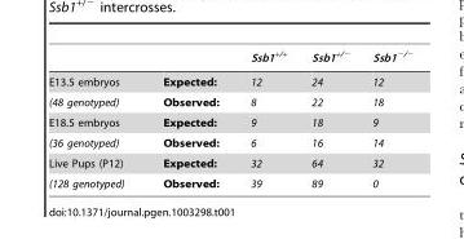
<table><thead><tr><td></td><td></td><td>Ssb1<sup>+/+</sup></td><td>Ssb1<sup>+/−</sup></td><td>Ssb1<sup>−/−</sup></td></tr></thead><tbody><tr><td>E13.5 embryos</td><td>Expected:</td><td>12</td><td>24</td><td>12</td></tr><tr><td>(48 genotyped)</td><td>Observed:</td><td>8</td><td>22</td><td>18</td></tr><tr><td>E18.5 embryos</td><td>Expected:</td><td>9</td><td>18</td><td>9</td></tr><tr><td>(36 genotyped)</td><td>Observed:</td><td>6</td><td>16</td><td>14</td></tr><tr><td>Live Pups (P12)</td><td>Expected:</td><td>32</td><td>64</td><td>32</td></tr><tr><td>(128 genotyped)</td><td>Observed:</td><td>39</td><td>89</td><td>0</td></tr></tbody></table>